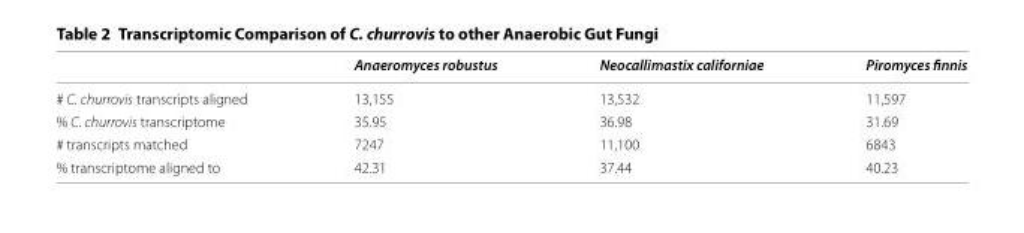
<table><thead><tr><td></td><td>Anaeromyces robustus</td><td>Neocallimastix californiae</td><td>Piromyces finnis</td></tr></thead><tbody><tr><td># C. churrovis transcripts aligned</td><td>13,155</td><td>13,532</td><td>11,597</td></tr><tr><td>% C. churrovis transcriptome</td><td>35.95</td><td>36.98</td><td>31.69</td></tr><tr><td># transcripts matched</td><td>7247</td><td>11,100</td><td>6843</td></tr><tr><td>% transcriptome aligned to</td><td>42.31</td><td>37.44</td><td>40.23</td></tr></tbody></table>